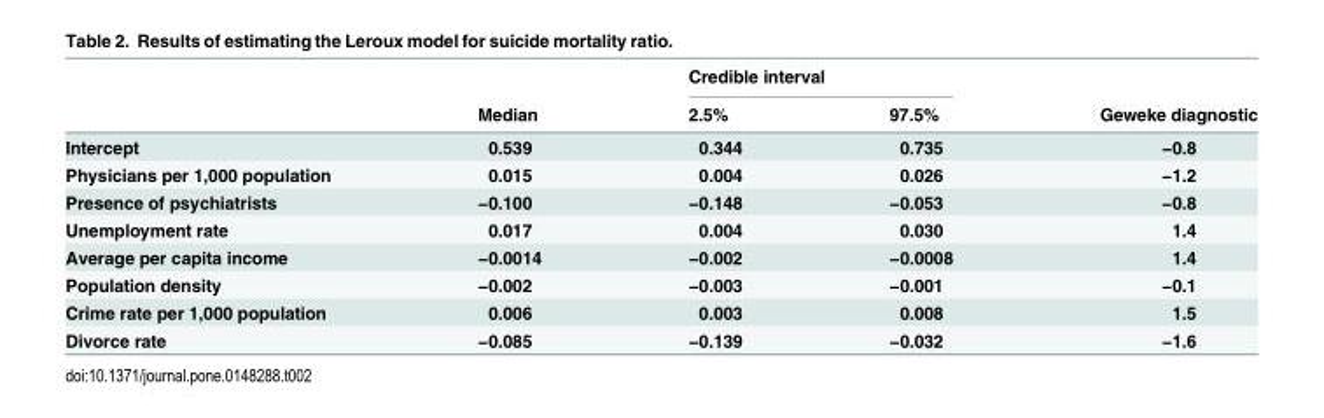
<table><thead><tr><td rowspan="2"></td><td rowspan="2">Median</td><td colspan="2">Credible interval</td><td rowspan="2">Geweke diagnostic</td></tr><tr><td>2.5%</td><td>97.5%</td></tr></thead><tbody><tr><td>Intercept</td><td>0.539</td><td>0.344</td><td>0.735</td><td>−0.8</td></tr><tr><td>Physicians per 1,000 population</td><td>0.015</td><td>0.004</td><td>0.026</td><td>−1.2</td></tr><tr><td>Presence of psychiatrists</td><td>−0.100</td><td>−0.148</td><td>−0.053</td><td>−0.8</td></tr><tr><td>Unemployment rate</td><td>0.017</td><td>0.004</td><td>0.030</td><td>1.4</td></tr><tr><td>Average per capita income</td><td>−0.0014</td><td>−0.002</td><td>−0.0008</td><td>1.4</td></tr><tr><td>Population density</td><td>−0.002</td><td>−0.003</td><td>−0.001</td><td>−0.1</td></tr><tr><td>Crime rate per 1,000 population</td><td>0.006</td><td>0.003</td><td>0.008</td><td>1.5</td></tr><tr><td>Divorce rate</td><td>−0.085</td><td>−0.139</td><td>−0.032</td><td>−1.6</td></tr></tbody></table>